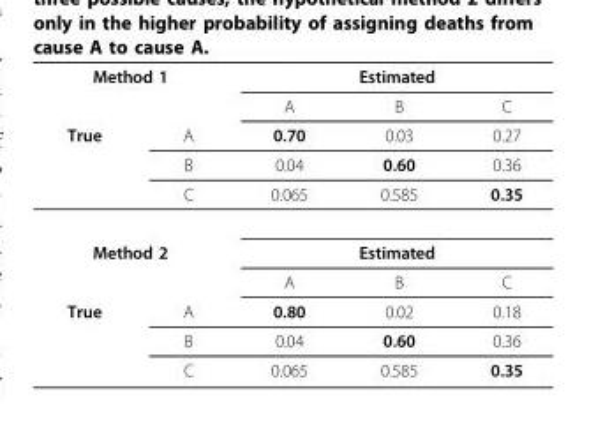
<table><thead><tr><td colspan="2">Method 1</td><td colspan="3">Estimated</td></tr><tr><td rowspan="4">True</td><td rowspan="4">A B C</td><td rowspan="4">A 0.70 0.04 0.065</td><td rowspan="4">B 0.03 0.60 0.585</td><td rowspan="4">C 0.27 0.36 0.35</td></tr><tr></tr><tr></tr><tr></tr></thead><tbody><tr><td colspan="2">Method 2</td><td colspan="3">Estimated</td></tr><tr><td></td><td></td><td>A</td><td>B</td><td>C</td></tr><tr><td rowspan="3">True</td><td>A</td><td>0.80</td><td>0.02</td><td>0.18</td></tr><tr><td>B</td><td>0.04</td><td>0.60</td><td>0.36</td></tr><tr><td>C</td><td>0.065</td><td>0.585</td><td>0.35</td></tr></tbody></table>